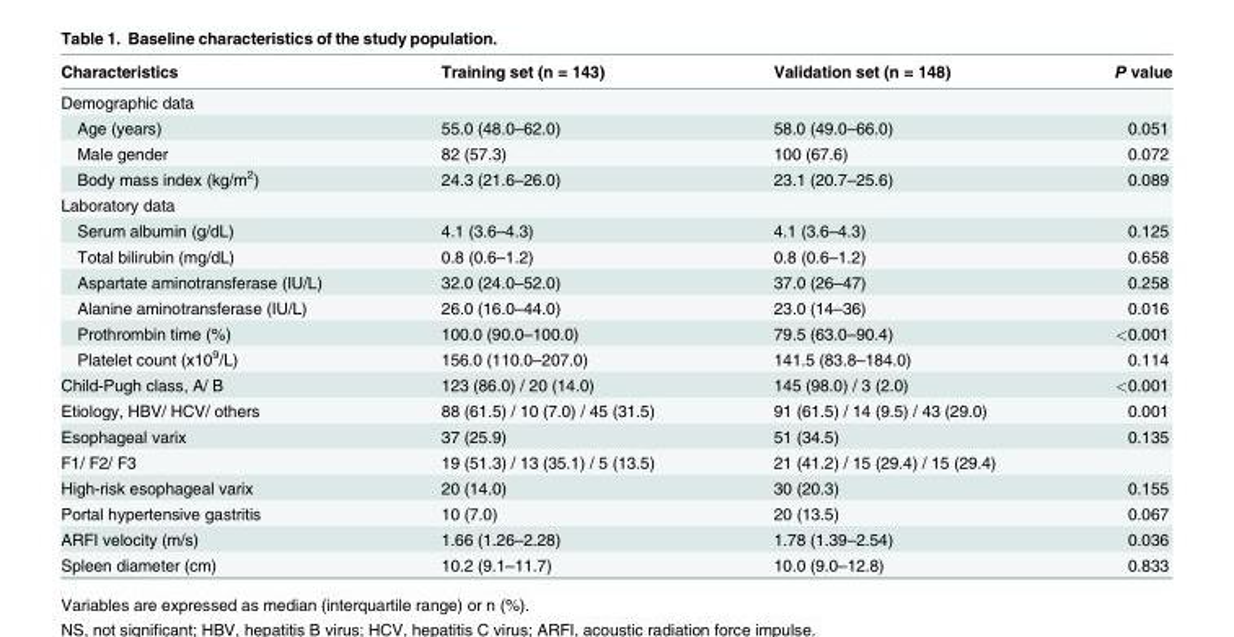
<table><thead><tr><td>Characteristics</td><td>Training set (n = 143)</td><td>Validation set (n = 148)</td><td>P value</td></tr></thead><tbody><tr><td colspan="4">Demographic data</td></tr><tr><td>Age (years)</td><td>55.0 (48.0–62.0)</td><td>58.0 (49.0–66.0)</td><td>0.051</td></tr><tr><td>Male gender</td><td>82 (57.3)</td><td>100 (67.6)</td><td>0.072</td></tr><tr><td>Body mass index (kg/m<sup>2</sup>)</td><td>24.3 (21.6–26.0)</td><td>23.1 (20.7–25.6)</td><td>0.089</td></tr><tr><td colspan="4">Laboratory data</td></tr><tr><td>Serum albumin (g/dL)</td><td>4.1 (3.6–4.3)</td><td>4.1 (3.6–4.3)</td><td>0.125</td></tr><tr><td>Total bilirubin (mg/dL)</td><td>0.8 (0.6–1.2)</td><td>0.8 (0.6–1.2)</td><td>0.658</td></tr><tr><td>Aspartate aminotransferase (IU/L)</td><td>32.0 (24.0–52.0)</td><td>37.0 (26–47)</td><td>0.258</td></tr><tr><td>Alanine aminotransferase (IU/L)</td><td>26.0 (16.0–44.0)</td><td>23.0 (14–36)</td><td>0.016</td></tr><tr><td>Prothrombin time (%)</td><td>100.0 (90.0–100.0)</td><td>79.5 (63.0–90.4)</td><td>&lt;0.001</td></tr><tr><td>Platelet count (x10<sup>9</sup>/L)</td><td>156.0 (110.0–207.0)</td><td>141.5 (83.8–184.0)</td><td>0.114</td></tr><tr><td>Child-Pugh class, A/ B</td><td>123 (86.0) / 20 (14.0)</td><td>145 (98.0) / 3 (2.0)</td><td>&lt;0.001</td></tr><tr><td>Etiology, HBV/ HCV/ others</td><td>88 (61.5) / 10 (7.0) / 45 (31.5)</td><td>91 (61.5) / 14 (9.5) / 43 (29.0)</td><td>0.001</td></tr><tr><td>Esophageal varix</td><td>37 (25.9)</td><td>51 (34.5)</td><td>0.135</td></tr><tr><td>F1/ F2/ F3</td><td>19 (51.3) / 13 (35.1) / 5 (13.5)</td><td>21 (41.2) / 15 (29.4) / 15 (29.4)</td><td></td></tr><tr><td>High-risk esophageal varix</td><td>20 (14.0)</td><td>30 (20.3)</td><td>0.155</td></tr><tr><td>Portal hypertensive gastritis</td><td>10 (7.0)</td><td>20 (13.5)</td><td>0.067</td></tr><tr><td>ARFI velocity (m/s)</td><td>1.66 (1.26–2.28)</td><td>1.78 (1.39–2.54)</td><td>0.036</td></tr><tr><td>Spleen diameter (cm)</td><td>10.2 (9.1–11.7)</td><td>10.0 (9.0–12.8)</td><td>0.833</td></tr></tbody></table>